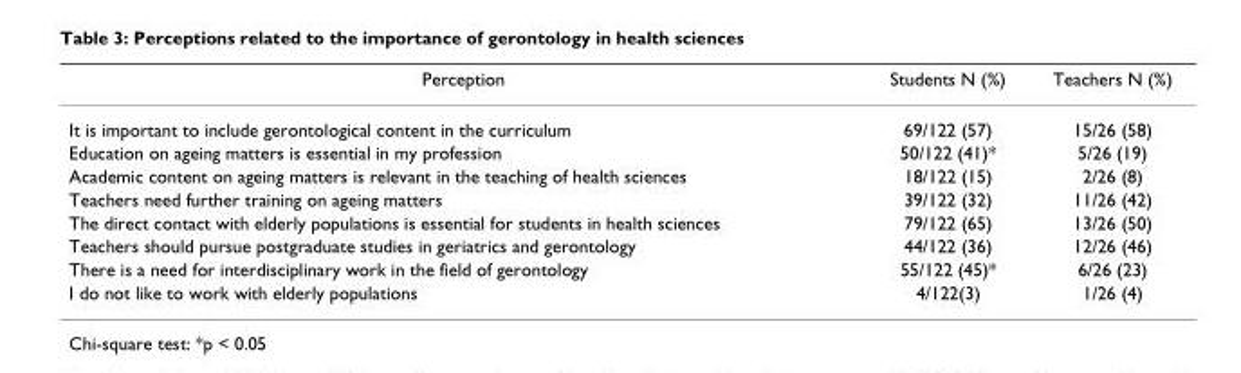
<table><thead><tr><td>Perception</td><td>Students N (%)</td><td>Teachers N (%)</td></tr></thead><tbody><tr><td>It is important to include gerontological content in the curriculum</td><td>69/122 (57)</td><td>15/26 (58)</td></tr><tr><td>Education on ageing matters is essential in my profession</td><td>50/122 (41)*</td><td>5/26 (19)</td></tr><tr><td>Academic content on ageing matters is relevant in the teaching of health sciences</td><td>18/122 (15)</td><td>2/26 (8)</td></tr><tr><td>Teachers need further training on ageing matters</td><td>39/122 (32)</td><td>11/26 (42)</td></tr><tr><td>The direct contact with elderly populations is essential for students in health sciences</td><td>79/122 (65)</td><td>13/26 (50)</td></tr><tr><td>Teachers should pursue postgraduate studies in geriatrics and gerontology</td><td>44/122 (36)</td><td>12/26 (46)</td></tr><tr><td>There is a need for interdisciplinary work in the field of gerontology</td><td>55/122 (45)*</td><td>6/26 (23)</td></tr><tr><td>I do not like to work with elderly populations</td><td>4/122(3)</td><td>1/26 (4)</td></tr></tbody></table>